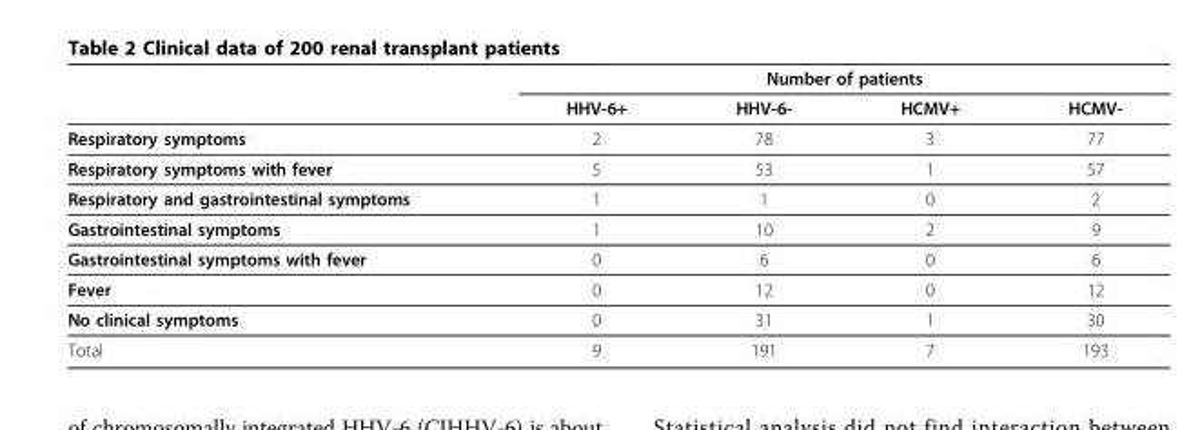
<table><thead><tr><td rowspan="2"></td><td colspan="4">Number of patients</td></tr><tr><td>HHV-6+</td><td>HHV-6-</td><td>HCMV+</td><td>HCMV-</td></tr></thead><tbody><tr><td>Respiratory symptoms</td><td>2</td><td>78</td><td>3</td><td>77</td></tr><tr><td>Respiratory symptoms with fever</td><td>5</td><td>53</td><td>1</td><td>57</td></tr><tr><td>Respiratory and gastrointestinal symptoms</td><td>1</td><td>1</td><td>0</td><td>2</td></tr><tr><td>Gastrointestinal symptoms</td><td>1</td><td>10</td><td>2</td><td>9</td></tr><tr><td>Gastrointestinal symptoms with fever</td><td>0</td><td>6</td><td>0</td><td>6</td></tr><tr><td>Fever</td><td>0</td><td>12</td><td>0</td><td>12</td></tr><tr><td>No clinical symptoms</td><td>0</td><td>31</td><td>1</td><td>30</td></tr><tr><td>Total</td><td>9</td><td>191</td><td>7</td><td>193</td></tr></tbody></table>